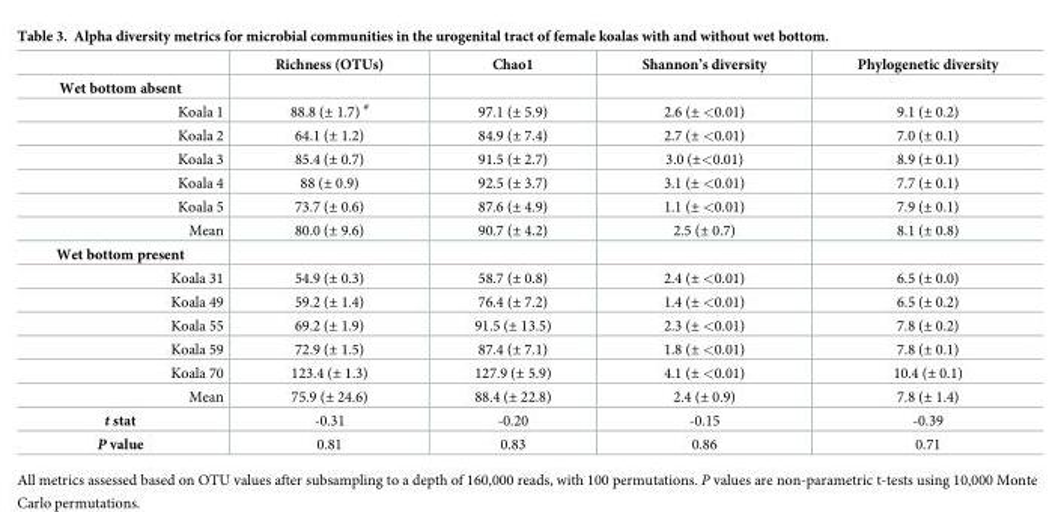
<table><thead><tr><td></td><td>Richness (OTUs)</td><td>Chao1</td><td>Shannon’s diversity</td><td>Phylogenetic diversity</td></tr></thead><tbody><tr><td colspan="5">Wet bottom absent</td></tr><tr><td>Koala 1</td><td>88.8 (± 1.7) <sup>#</sup></td><td>97.1 (± 5.9)</td><td>2.6 (± &lt;0.01)</td><td>9.1 (± 0.2)</td></tr><tr><td>Koala 2</td><td>64.1 (± 1.2)</td><td>84.9 (± 7.4)</td><td>2.7 (± &lt;0.01)</td><td>7.0 (± 0.1)</td></tr><tr><td>Koala 3</td><td>85.4 (± 0.7)</td><td>91.5 (± 2.7)</td><td>3.0 (±&lt;0.01)</td><td>8.9 (± 0.1)</td></tr><tr><td>Koala 4</td><td>88 (± 0.9)</td><td>92.5 (± 3.7)</td><td>3.1 (± &lt;0.01)</td><td>7.7 (± 0.1)</td></tr><tr><td>Koala 5</td><td>73.7 (± 0.6)</td><td>87.6 (± 4.9)</td><td>1.1 (± &lt;0.01)</td><td>7.9 (± 0.1)</td></tr><tr><td>Mean</td><td>80.0 (± 9.6)</td><td>90.7 (± 4.2)</td><td>2.5 (± 0.7)</td><td>8.1 (± 0.8)</td></tr><tr><td colspan="5">Wet bottom present</td></tr><tr><td>Koala 31</td><td>54.9 (± 0.3)</td><td>58.7 (± 0.8)</td><td>2.4 (± &lt;0.01)</td><td>6.5 (± 0.0)</td></tr><tr><td>Koala 49</td><td>59.2 (± 1.4)</td><td>76.4 (± 7.2)</td><td>1.4 (± &lt;0.01)</td><td>6.5 (± 0.2)</td></tr><tr><td>Koala 55</td><td>69.2 (± 1.9)</td><td>91.5 (± 13.5)</td><td>2.3 (± &lt;0.01)</td><td>7.8 (± 0.2)</td></tr><tr><td>Koala 59</td><td>72.9 (± 1.5)</td><td>87.4 (± 7.1)</td><td>1.8 (± &lt;0.01)</td><td>7.8 (± 0.1)</td></tr><tr><td>Koala 70</td><td>123.4 (± 1.3)</td><td>127.9 (± 5.9)</td><td>4.1 (± &lt;0.01)</td><td>10.4 (± 0.1)</td></tr><tr><td>Mean</td><td>75.9 (± 24.6)</td><td>88.4 (± 22.8)</td><td>2.4 (± 0.9)</td><td>7.8 (± 1.4)</td></tr><tr><td>t stat</td><td>-0.31</td><td>-0.20</td><td>-0.15</td><td>-0.39</td></tr><tr><td>P value</td><td>0.81</td><td>0.83</td><td>0.86</td><td>0.71</td></tr></tbody></table>